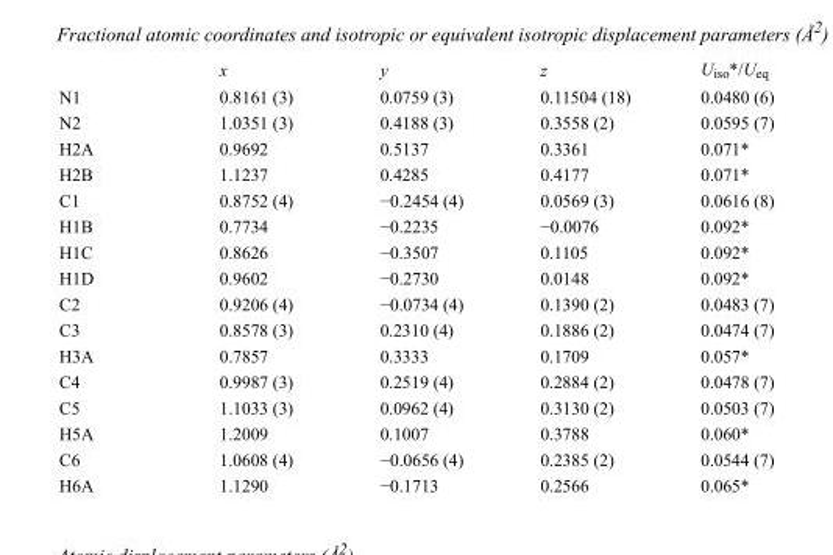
<table><thead><tr><td></td><td>x</td><td>y</td><td>z</td><td>U<sub>iso</sub>*/U<sub>eq</sub></td></tr></thead><tbody><tr><td>N1</td><td>0.8161 (3)</td><td>0.0759 (3)</td><td>0.11504 (18)</td><td>0.0480 (6)</td></tr><tr><td>N2</td><td>1.0351 (3)</td><td>0.4188 (3)</td><td>0.3558 (2)</td><td>0.0595 (7)</td></tr><tr><td>H2A</td><td>0.9692</td><td>0.5137</td><td>0.3361</td><td>0.071*</td></tr><tr><td>H2B</td><td>1.1237</td><td>0.4285</td><td>0.4177</td><td>0.071*</td></tr><tr><td>C1</td><td>0.8752 (4)</td><td>−0.2454 (4)</td><td>0.0569 (3)</td><td>0.0616 (8)</td></tr><tr><td>H1B</td><td>0.7734</td><td>−0.2235</td><td>−0.0076</td><td>0.092*</td></tr><tr><td>H1C</td><td>0.8626</td><td>−0.3507</td><td>0.1105</td><td>0.092*</td></tr><tr><td>H1D</td><td>0.9602</td><td>−0.2730</td><td>0.0148</td><td>0.092*</td></tr><tr><td>C2</td><td>0.9206 (4)</td><td>−0.0734 (4)</td><td>0.1390 (2)</td><td>0.0483 (7)</td></tr><tr><td>C3</td><td>0.8578 (3)</td><td>0.2310 (4)</td><td>0.1886 (2)</td><td>0.0474 (7)</td></tr><tr><td>H3A</td><td>0.7857</td><td>0.3333</td><td>0.1709</td><td>0.057*</td></tr><tr><td>C4</td><td>0.9987 (3)</td><td>0.2519 (4)</td><td>0.2884 (2)</td><td>0.0478 (7)</td></tr><tr><td>C5</td><td>1.1033 (3)</td><td>0.0962 (4)</td><td>0.3130 (2)</td><td>0.0503 (7)</td></tr><tr><td>H5A</td><td>1.2009</td><td>0.1007</td><td>0.3788</td><td>0.060*</td></tr><tr><td>C6</td><td>1.0608 (4)</td><td>−0.0656 (4)</td><td>0.2385 (2)</td><td>0.0544 (7)</td></tr><tr><td>H6A</td><td>1.1290</td><td>−0.1713</td><td>0.2566</td><td>0.065*</td></tr></tbody></table>